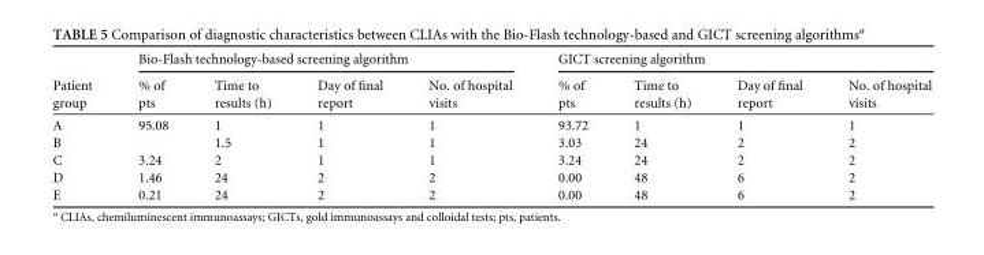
<table><thead><tr><td rowspan="2">Patient group</td><td colspan="4">Bio-Flash technology-based screening algorithm</td><td colspan="4">GICT screening algorithm</td></tr><tr><td>% of pts</td><td>Time to results (h)</td><td>Day of final report</td><td>No. of hospital visits</td><td>% of pts</td><td>Time to results (h)</td><td>Day of final report</td><td>No. of hospital visits</td></tr></thead><tbody><tr><td>A</td><td>95.08</td><td>1</td><td>1</td><td>1</td><td>93.72</td><td>1</td><td>1</td><td>1</td></tr><tr><td>B</td><td></td><td>1.5</td><td>1</td><td>1</td><td>3.03</td><td>24</td><td>2</td><td>2</td></tr><tr><td>C</td><td>3.24</td><td>2</td><td>1</td><td>1</td><td>3.24</td><td>24</td><td>2</td><td>2</td></tr><tr><td>D</td><td>1.46</td><td>24</td><td>2</td><td>2</td><td>0.00</td><td>48</td><td>6</td><td>2</td></tr><tr><td>E</td><td>0.21</td><td>24</td><td>2</td><td>2</td><td>0.00</td><td>48</td><td>6</td><td>2</td></tr></tbody></table>